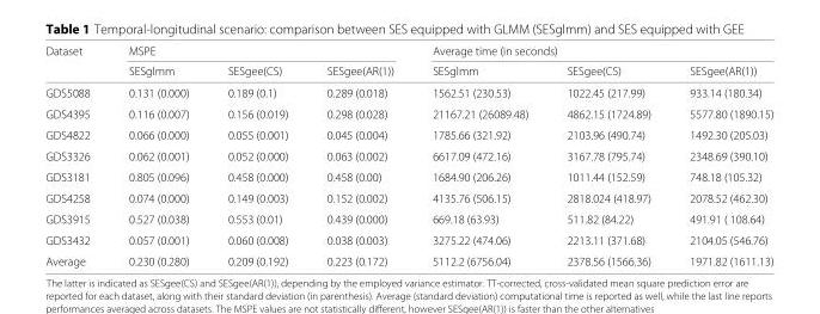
<table><thead><tr><td rowspan="2">Dataset</td><td colspan="3">MSPE</td><td colspan="3">Average time (in seconds)</td></tr><tr><td>SESglmm</td><td>SESgee(CS)</td><td>SESgee(AR(1))</td><td>SESglmm</td><td>SESgee(CS)</td><td>SESgee(AR(1))</td></tr></thead><tbody><tr><td>GDS5088</td><td>0.131 (0.000)</td><td>0.189 (0.1)</td><td>0.289 (0.018)</td><td>1562.51 (230.53)</td><td>1022.45 (217.99)</td><td>933.14 (180.34)</td></tr><tr><td>GDS4395</td><td>0.116 (0.007)</td><td>0.156 (0.019)</td><td>0.298 (0.028)</td><td>21167.21 (26089.48)</td><td>4862.15 (1724.89)</td><td>5577.80 (1890.15)</td></tr><tr><td>GDS4822</td><td>0.066 (0.000)</td><td>0.055 (0.001)</td><td>0.045 (0.004)</td><td>1785.66 (321.92)</td><td>2103.96 (490.74)</td><td>1492.30 (205.03)</td></tr><tr><td>GDS3326</td><td>0.062 (0.001)</td><td>0.052 (0.000)</td><td>0.063 (0.002)</td><td>6617.09 (472.16)</td><td>3167.78 (795.74)</td><td>2348.69 (390.10)</td></tr><tr><td>GDS3181</td><td>0.805 (0.096)</td><td>0.458 (0.000)</td><td>0.458 (0.00)</td><td>1684.90 (206.26)</td><td>1011.44 (152.59)</td><td>748.18 (105.32)</td></tr><tr><td>GDS4258</td><td>0.074 (0.000)</td><td>0.149 (0.003)</td><td>0.152 (0.002)</td><td>4135.76 (506.15)</td><td>2818.024 (418.97)</td><td>2078.52 (462.30)</td></tr><tr><td>GDS3915</td><td>0.527 (0.038)</td><td>0.553 (0.01)</td><td>0.439 (0.000)</td><td>669.18 (63.93)</td><td>511.82 (84.22)</td><td>491.91 ( 108.64)</td></tr><tr><td>GDS3432</td><td>0.057 (0.001)</td><td>0.060 (0.008)</td><td>0.038 (0.003)</td><td>3275.22 (474.06)</td><td>2213.11 (371.68)</td><td>2104.05 (546.76)</td></tr><tr><td>Average</td><td>0.230 (0.280)</td><td>0.209 (0.192)</td><td>0.223 (0.172)</td><td>5112.2 (6756.04)</td><td>2378.56 (1566.36)</td><td>1971.82 (1611.13)</td></tr></tbody></table>